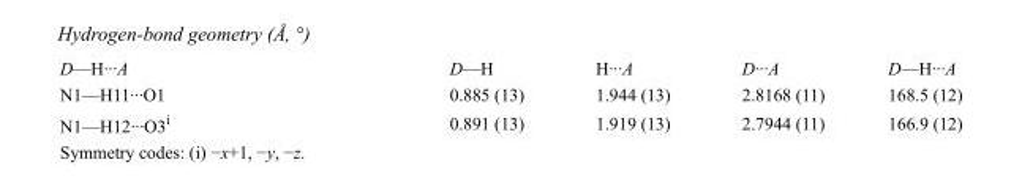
<table><tbody><tr><td>D—H···A</td><td>D—H</td><td>H···A</td><td>D···A</td><td>D—H···A</td></tr><tr><td>N1—H11···O1</td><td>0.885 (13)</td><td>1.944 (13)</td><td>2.8168 (11)</td><td>168.5 (12)</td></tr><tr><td>N1—H12···O3<sup>i</sup></td><td>0.891 (13)</td><td>1.919 (13)</td><td>2.7944 (11)</td><td>166.9 (12)</td></tr></tbody></table>